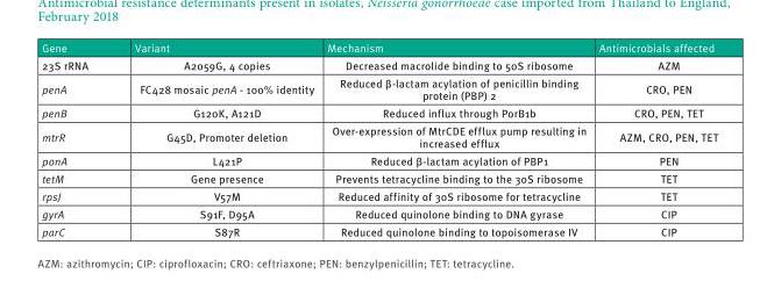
<table><thead><tr><td>Gene</td><td>Variant</td><td>Mechanism</td><td>Antimicrobials affected</td></tr></thead><tbody><tr><td>23S rRNA</td><td>A2059G, 4 copies</td><td>Decreased macrolide binding to 50S ribosome</td><td>AZM</td></tr><tr><td>penA</td><td>FC428 mosaic penA - 100% identity</td><td>Reduced β-lactam acylation of penicillin binding protein (PBP) 2</td><td>CRO, PEN</td></tr><tr><td>penB</td><td>G120K, A121D</td><td>Reduced influx through PorB1b</td><td>CRO, PEN, TET</td></tr><tr><td>mtrR</td><td>G45D, Promoter deletion</td><td>Over-expression of MtrCDE efflux pump resulting in increased efflux</td><td>AZM, CRO, PEN, TET</td></tr><tr><td>ponA</td><td>L421P</td><td>Reduced β-lactam acylation of PBP1</td><td>PEN</td></tr><tr><td>tetM</td><td>Gene presence</td><td>Prevents tetracycline binding to the 30S ribosome</td><td>TET</td></tr><tr><td>rpsJ</td><td>V57M</td><td>Reduced affinity of 30S ribosome for tetracycline</td><td>TET</td></tr><tr><td>gyrA</td><td>S91F, D95A</td><td>Reduced quinolone binding to DNA gyrase</td><td>CIP</td></tr><tr><td>parC</td><td>S87R</td><td>Reduced quinolone binding to topoisomerase IV</td><td>CIP</td></tr></tbody></table>